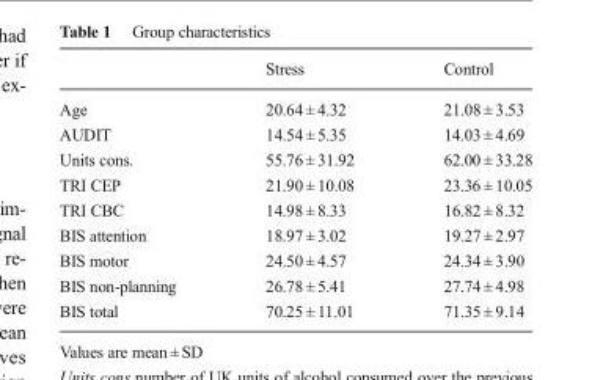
<table><thead><tr><td></td><td>Stress</td><td>Control</td></tr></thead><tbody><tr><td>Age</td><td>20.64 ± 4.32</td><td>21.08 ± 3.53</td></tr><tr><td>AUDIT</td><td>14.54 ± 5.35</td><td>14.03 ± 4.69</td></tr><tr><td>Units cons.</td><td>55.76 ± 31.92</td><td>62.00 ± 33.28</td></tr><tr><td>TRI CEP</td><td>21.90 ± 10.08</td><td>23.36 ± 10.05</td></tr><tr><td>TRI CBC</td><td>14.98 ± 8.33</td><td>16.82 ± 8.32</td></tr><tr><td>BIS attention</td><td>18.97 ± 3.02</td><td>19.27 ± 2.97</td></tr><tr><td>BIS motor</td><td>24.50 ± 4.57</td><td>24.34 ± 3.90</td></tr><tr><td>BIS non-planning</td><td>26.78 ± 5.41</td><td>27.74 ± 4.98</td></tr><tr><td>BIS total</td><td>70.25 ± 11.01</td><td>71.35 ± 9.14</td></tr></tbody></table>